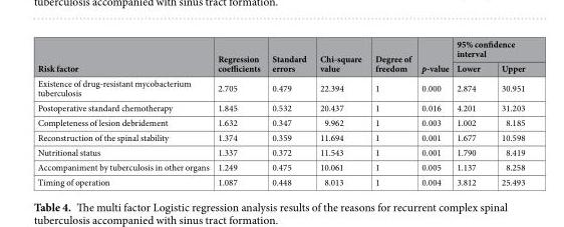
<table><thead><tr><td rowspan="2">Risk factor</td><td rowspan="2">Regression coefficients</td><td rowspan="2">Standard errors</td><td rowspan="2">Chi-square value</td><td rowspan="2">Degree of freedom</td><td rowspan="2">p-value</td><td colspan="2">95% confidence interval</td></tr><tr><td>Lower</td><td>Upper</td></tr></thead><tbody><tr><td>Existence of drug-resistant mycobacterium tuberculosis</td><td>2.705</td><td>0.479</td><td>22.394</td><td>1</td><td>0.000</td><td>2.874</td><td>30.951</td></tr><tr><td>Postoperative standard chemotherapy</td><td>1.845</td><td>0.532</td><td>20.437</td><td>1</td><td>0.016</td><td>4.201</td><td>31.203</td></tr><tr><td>Completeness of lesion debridement</td><td>1.632</td><td>0.347</td><td>9.962</td><td>1</td><td>0.003</td><td>1.002</td><td>8.185</td></tr><tr><td>Reconstruction of the spinal stability</td><td>1.374</td><td>0.359</td><td>11.694</td><td>1</td><td>0.001</td><td>1.677</td><td>10.598</td></tr><tr><td>Nutritional status</td><td>1.337</td><td>0.372</td><td>11.543</td><td>1</td><td>0.001</td><td>1.790</td><td>8.419</td></tr><tr><td>Accompaniment by tuberculosis in other organs</td><td>1.249</td><td>0.475</td><td>10.061</td><td>1</td><td>0.005</td><td>1.137</td><td>8.258</td></tr><tr><td>Timing of operation</td><td>1.087</td><td>0.448</td><td>8.013</td><td>1</td><td>0.004</td><td>3.812</td><td>25.493</td></tr></tbody></table>